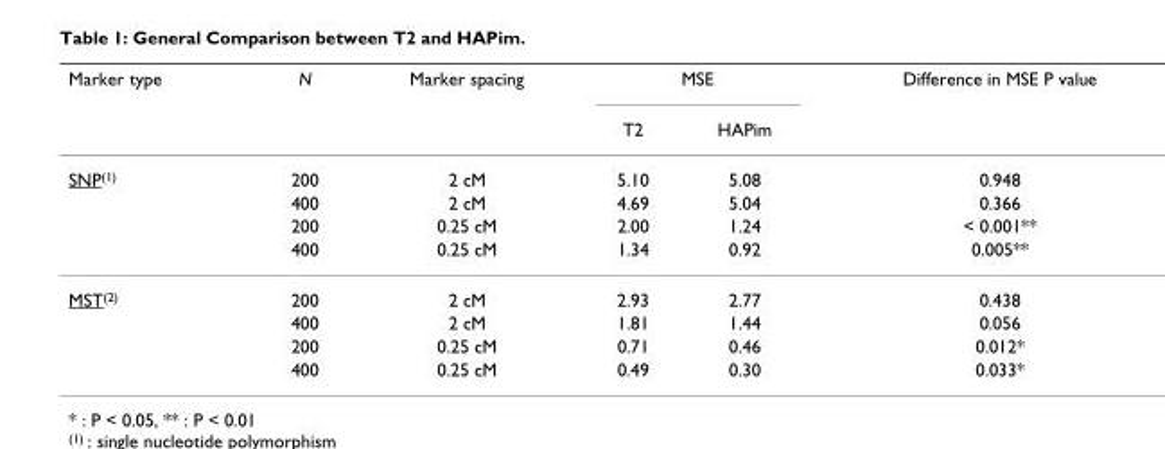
<table><thead><tr><td rowspan="2">Marker type</td><td rowspan="2">N</td><td rowspan="2">Marker spacing</td><td colspan="2">MSE</td><td rowspan="2">Difference in MSE P value</td></tr><tr><td>T2</td><td>HAPim</td></tr></thead><tbody><tr><td rowspan="4">SNP(1)</td><td>200</td><td>2 cM</td><td>5.10</td><td>5.08</td><td>0.948</td></tr><tr><td>400</td><td>2 cM</td><td>4.69</td><td>5.04</td><td>0.366</td></tr><tr><td>200</td><td>0.25 cM</td><td>2.00</td><td>1.24</td><td>&lt; 0.001**</td></tr><tr><td>400</td><td>0.25 cM</td><td>1.34</td><td>0.92</td><td>0.005**</td></tr><tr><td rowspan="4">MST(2)</td><td>200</td><td>2 cM</td><td>2.93</td><td>2.77</td><td>0.438</td></tr><tr><td>400</td><td>2 cM</td><td>1.81</td><td>1.44</td><td>0.056</td></tr><tr><td>200</td><td>0.25 cM</td><td>0.71</td><td>0.46</td><td>0.012*</td></tr><tr><td>400</td><td>0.25 cM</td><td>0.49</td><td>0.30</td><td>0.033*</td></tr></tbody></table>